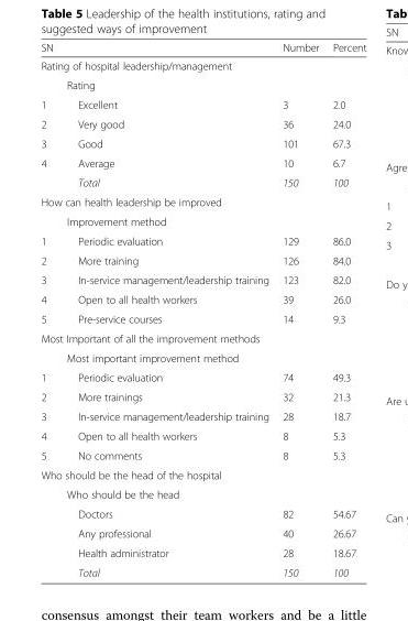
<table><thead><tr><td>SN</td><td></td><td>Number</td><td>Percent</td></tr></thead><tbody><tr><td colspan="4">Rating of hospital leadership/management</td></tr><tr><td></td><td>Rating</td><td></td><td></td></tr><tr><td>1</td><td>Excellent</td><td>3</td><td>2.0</td></tr><tr><td>2</td><td>Very good</td><td>36</td><td>24.0</td></tr><tr><td>3</td><td>Good</td><td>101</td><td>67.3</td></tr><tr><td rowspan="2">4</td><td>Average</td><td>10</td><td>6.7</td></tr><tr><td>Total</td><td>150</td><td>100</td></tr><tr><td colspan="4">How can health leadership be improved</td></tr><tr><td></td><td>Improvement method</td><td></td><td></td></tr><tr><td>1</td><td>Periodic evaluation</td><td>129</td><td>86.0</td></tr><tr><td>2</td><td>More training</td><td>126</td><td>84.0</td></tr><tr><td>3</td><td>In-service management/leadership training</td><td>123</td><td>82.0</td></tr><tr><td>4</td><td>Open to all health workers</td><td>39</td><td>26.0</td></tr><tr><td>5</td><td>Pre-service courses</td><td>14</td><td>9.3</td></tr><tr><td colspan="4">Most Important of all the improvement methods</td></tr><tr><td></td><td>Most important improvement method</td><td></td><td></td></tr><tr><td>1</td><td>Periodic evaluation</td><td>74</td><td>49.3</td></tr><tr><td>2</td><td>More trainings</td><td>32</td><td>21.3</td></tr><tr><td>3</td><td>In-service management/leadership training</td><td>28</td><td>18.7</td></tr><tr><td>4</td><td>Open to all health workers</td><td>8</td><td>5.3</td></tr><tr><td>5</td><td>No comments</td><td>8</td><td>5.3</td></tr><tr><td colspan="4">Who should be the head of the hospital</td></tr><tr><td></td><td>Who should be the head</td><td></td><td></td></tr><tr><td></td><td>Doctors</td><td>82</td><td>54.67</td></tr><tr><td></td><td>Any professional</td><td>40</td><td>26.67</td></tr><tr><td></td><td>Health administrator</td><td>28</td><td>18.67</td></tr><tr><td></td><td>Total</td><td>150</td><td>100</td></tr></tbody></table>